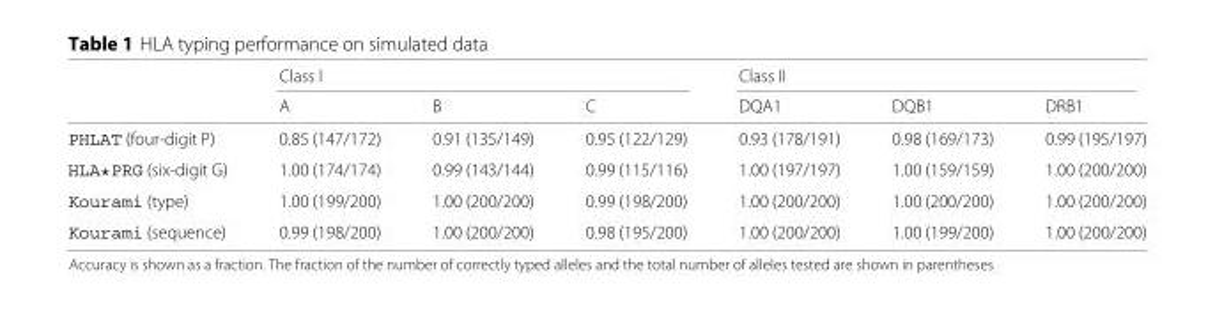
<table><thead><tr><td rowspan="2"></td><td colspan="3">Class I</td><td colspan="3">Class II</td></tr><tr><td>A</td><td>B</td><td>C</td><td>DQA1</td><td>DQB1</td><td>DRB1</td></tr></thead><tbody><tr><td>PHLAT (four-digit P)</td><td>0.85 (147/172)</td><td>0.91 (135/149)</td><td>0.95 (122/129)</td><td>0.93 (178/191)</td><td>0.98 (169/173)</td><td>0.99 (195/197)</td></tr><tr><td>HLA*PRG (six-digit G)</td><td>1.00 (174/174)</td><td>0.99 (143/144)</td><td>0.99 (115/116)</td><td>1.00 (197/197)</td><td>1.00 (159/159)</td><td>1.00 (200/200)</td></tr><tr><td>Kourami (type)</td><td>1.00 (199/200)</td><td>1.00 (200/200)</td><td>0.99 (198/200)</td><td>1.00 (200/200)</td><td>1.00 (200/200)</td><td>1.00 (200/200)</td></tr><tr><td>Kourami (sequence)</td><td>0.99 (198/200)</td><td>1.00 (200/200)</td><td>0.98 (195/200)</td><td>1.00 (200/200)</td><td>1.00 (199/200)</td><td>1.00 (200/200)</td></tr></tbody></table>